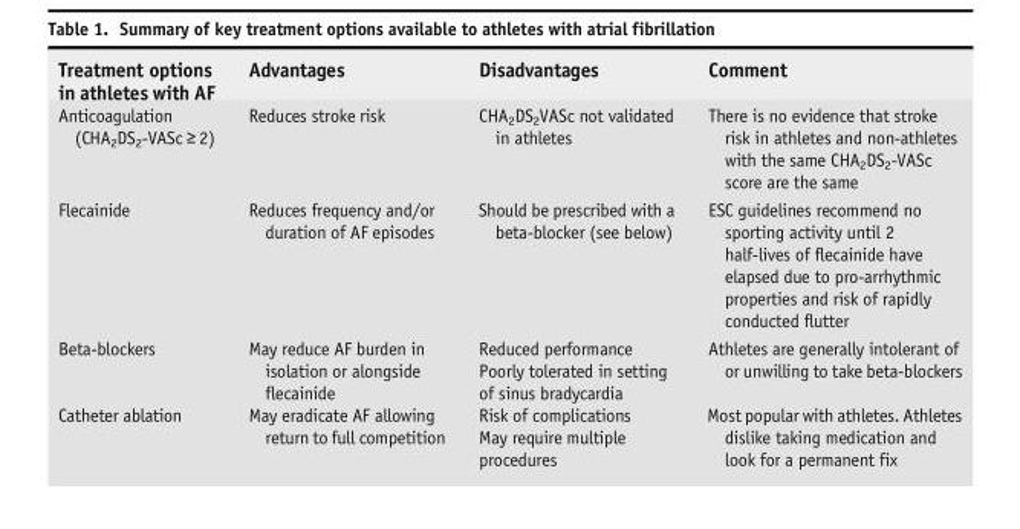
<table><thead><tr><td>Treatment options in athletes with AF</td><td>Advantages</td><td>Disadvantages</td><td>Comment</td></tr></thead><tbody><tr><td>Anticoagulation (CHA<sub>2</sub>DS<sub>2</sub>-VASc ≥ 2)</td><td>Reduces stroke risk</td><td>CHA<sub>2</sub>DS<sub>2</sub>VASc not validated in athletes</td><td>There is no evidence that stroke risk in athletes and non-athletes with the same CHA<sub>2</sub>DS<sub>2</sub>-VASc score are the same</td></tr><tr><td>Flecainide</td><td>Reduces frequency and/or duration of AF episodes</td><td>Should be prescribed with a beta-blocker (see below)</td><td>ESC guidelines recommend no sporting activity until 2 half-lives of flecainide have elapsed due to pro-arrhythmic properties and risk of rapidly conducted flutter</td></tr><tr><td>Beta-blockers</td><td>May reduce AF burden in isolation or alongside flecainide</td><td>Reduced performance Poorly tolerated in setting of sinus bradycardia</td><td>Athletes are generally intolerant of or unwilling to take beta-blockers</td></tr><tr><td>Catheter ablation</td><td>May eradicate AF allowing return to full competition</td><td>Risk of complications May require multiple procedures</td><td>Most popular with athletes. Athletes dislike taking medication and look for a permanent fix</td></tr></tbody></table>